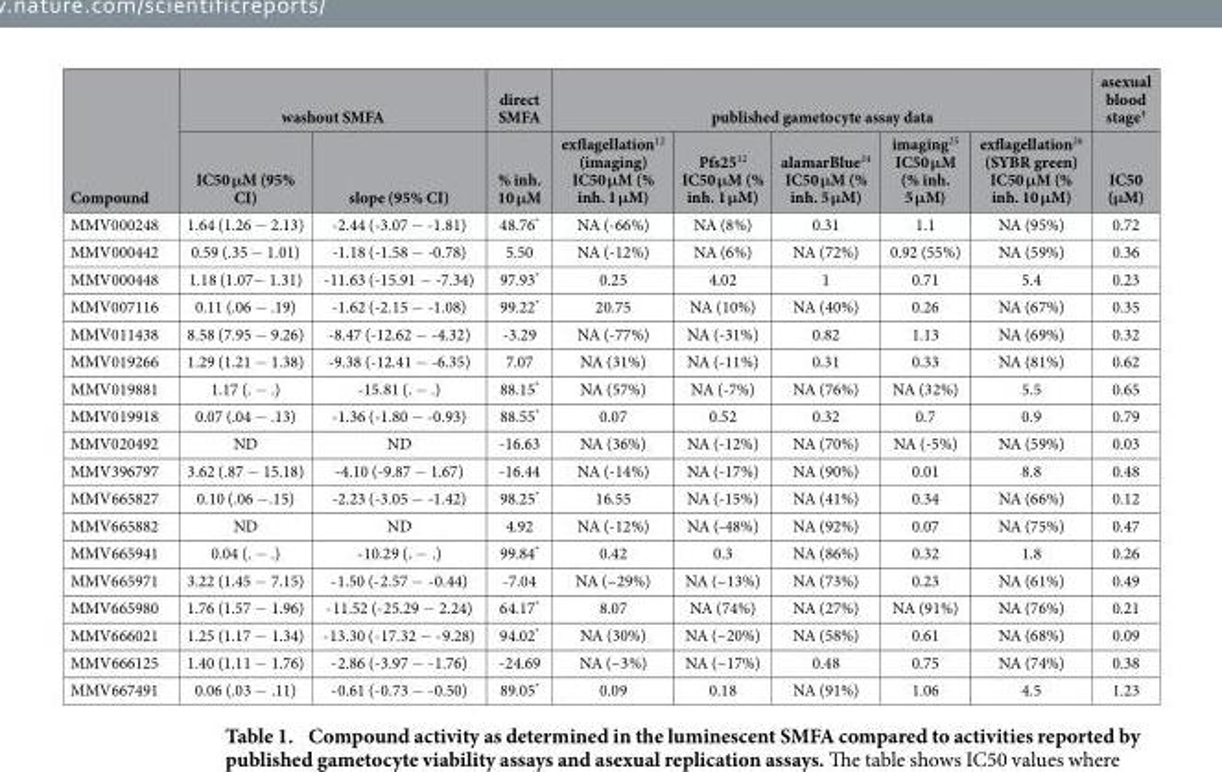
<table><thead><tr><td rowspan="2">Compound</td><td colspan="2">washout SMFA</td><td rowspan="2">direct SMFA % inh. 10 μM</td><td colspan="5">published gametocyte assay data</td><td rowspan="2">asexual blood stage<sup>†</sup> IC50 (μM)</td></tr><tr><td>IC50 μM (95% CI)</td><td>slope (95% CI)</td><td>exflagellation<sup>12</sup> (imaging) IC50 μM (% inh. 1 μM)</td><td>Pfs25<sup>12</sup> IC50 μM (% inh. 1 μM)</td><td>alamarBlue<sup>24</sup> IC50 μM (% inh. 5 μM)</td><td>imaging<sup>25</sup> IC50 μM (% inh. 5 μM)</td><td>exflagellation<sup>26</sup> (SYBR green) IC50 μM (% inh. 10 μM)</td></tr></thead><tbody><tr><td>MMV000248</td><td>1.64 (1.26 − 2.13)</td><td>-2.44 (-3.07 − -1.81)</td><td>48.76*</td><td>NA (-66%)</td><td>NA (8%)</td><td>0.31</td><td>1.1</td><td>NA (95%)</td><td>0.72</td></tr><tr><td>MMV000442</td><td>0.59 (.35 − 1.01)</td><td>-1.18 (-1.58 − -0.78)</td><td>5.50</td><td>NA (-12%)</td><td>NA (6%)</td><td>NA (72%)</td><td>0.92 (55%)</td><td>NA (59%)</td><td>0.36</td></tr><tr><td>MMV000448</td><td>1.18 (1.07− 1.31)</td><td>-11.63 (-15.91 − -7.34)</td><td>97.93*</td><td>0.25</td><td>4.02</td><td>1</td><td>0.71</td><td>5.4</td><td>0.23</td></tr><tr><td>MMV007116</td><td>0.11 (.06 − .19)</td><td>-1.62 (-2.15 − -1.08)</td><td>99.22*</td><td>20.75</td><td>NA (10%)</td><td>NA (40%)</td><td>0.26</td><td>NA (67%)</td><td>0.35</td></tr><tr><td>MMV011438</td><td>8.58 (7.95 − 9.26)</td><td>-8.47 (-12.62 − -4.32)</td><td>-3.29</td><td>NA (-77%)</td><td>NA (-31%)</td><td>0.82</td><td>1.13</td><td>NA (69%)</td><td>0.32</td></tr><tr><td>MMV019266</td><td>1.29 (1.21 − 1.38)</td><td>-9.38 (-12.41 − -6.35)</td><td>7.07</td><td>NA (31%)</td><td>NA (-11%)</td><td>0.31</td><td>0.33</td><td>NA (81%)</td><td>0.62</td></tr><tr><td>MMV019881</td><td>1.17 (. − .)</td><td>-15.81 (. − .)</td><td>88.15*</td><td>NA (57%)</td><td>NA (-7%)</td><td>NA (76%)</td><td>NA (32%)</td><td>5.5</td><td>0.65</td></tr><tr><td>MMV019918</td><td>0.07 (.04 − .13)</td><td>-1.36 (-1.80 − -0.93)</td><td>88.55*</td><td>0.07</td><td>0.52</td><td>0.32</td><td>0.7</td><td>0.9</td><td>0.79</td></tr><tr><td>MMV020492</td><td>ND</td><td>ND</td><td>-16.63</td><td>NA (36%)</td><td>NA (-12%)</td><td>NA (70%)</td><td>NA (-5%)</td><td>NA (59%)</td><td>0.03</td></tr><tr><td>MMV396797</td><td>3.62 (.87 − 15.18)</td><td>-4.10 (-9.87 − 1.67)</td><td>-16.44</td><td>NA (-14%)</td><td>NA (-17%)</td><td>NA (90%)</td><td>0.01</td><td>8.8</td><td>0.48</td></tr><tr><td>MMV665827</td><td>0.10 (.06 −.15)</td><td>-2.23 (-3.05 − -1.42)</td><td>98.25*</td><td>16.55</td><td>NA (-15%)</td><td>NA (41%)</td><td>0.34</td><td>NA (66%)</td><td>0.12</td></tr><tr><td>MMV665882</td><td>ND</td><td>ND</td><td>4.92</td><td>NA (-12%)</td><td>NA (-48%)</td><td>NA (92%)</td><td>0.07</td><td>NA (75%)</td><td>0.47</td></tr><tr><td>MMV665941</td><td>0.04 (. − .)</td><td>- 10.29 (. − .)</td><td>99.84*</td><td>0.42</td><td>0.3</td><td>NA (86%)</td><td>0.32</td><td>1.8</td><td>0.26</td></tr><tr><td>MMV665971</td><td>3.22 (1.45 − 7.15)</td><td>- 1.50 (- 2.57 − - 0.44)</td><td>-7.04</td><td>NA (– 29%)</td><td>NA (– 13%)</td><td>NA (73%)</td><td>0.23</td><td>NA (61%)</td><td>0.49</td></tr><tr><td>MMV665980</td><td>1.76 (1.57 − 1.96)</td><td>- 11.52 (- 25.29 − 2.24)</td><td>64.17*</td><td>8.07</td><td>NA (74%)</td><td>NA (27%)</td><td>NA (91%)</td><td>NA (76%)</td><td>0.21</td></tr><tr><td>MMV666021</td><td>1.25 (1.17 − 1.34)</td><td>- 13.30 (- 17.32 − - 9.28)</td><td>94.02*</td><td>NA (30%)</td><td>NA (– 20%)</td><td>NA (58%)</td><td>0.61</td><td>NA (68%)</td><td>0.09</td></tr><tr><td>MMV666125</td><td>1.40 (1.11 − 1.76)</td><td>- 2.86 (- 3.97 − - 1.76)</td><td>- 24.69</td><td>NA (– 3%)</td><td>NA (– 17%)</td><td>0.48</td><td>0.75</td><td>NA (74%)</td><td>0.38</td></tr><tr><td>MMV667491</td><td>0.06 (.03 − .11)</td><td>- 0.61 (- 0.73 − - 0.50)</td><td>89.05*</td><td>0.09</td><td>0.18</td><td>NA (91%)</td><td>1.06</td><td>4.5</td><td>1.23</td></tr></tbody></table>